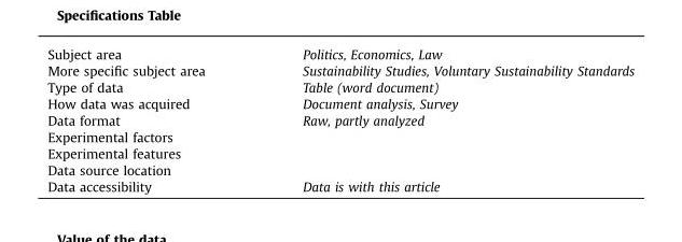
<table><tbody><tr><td>Subject area</td><td>Politics, Economics, Law</td></tr><tr><td>More specific subject area</td><td>Sustainability Studies, Voluntary Sustainability Standards</td></tr><tr><td>Type of data</td><td>Table (word document)</td></tr><tr><td>How data was acquired</td><td>Document analysis, Survey</td></tr><tr><td>Data format</td><td>Raw, partly analyzed</td></tr><tr><td colspan="2">Experimental factors</td></tr><tr><td colspan="2">Experimental features</td></tr><tr><td colspan="2">Data source location</td></tr><tr><td>Data accessibility</td><td>Data is with this article</td></tr></tbody></table>